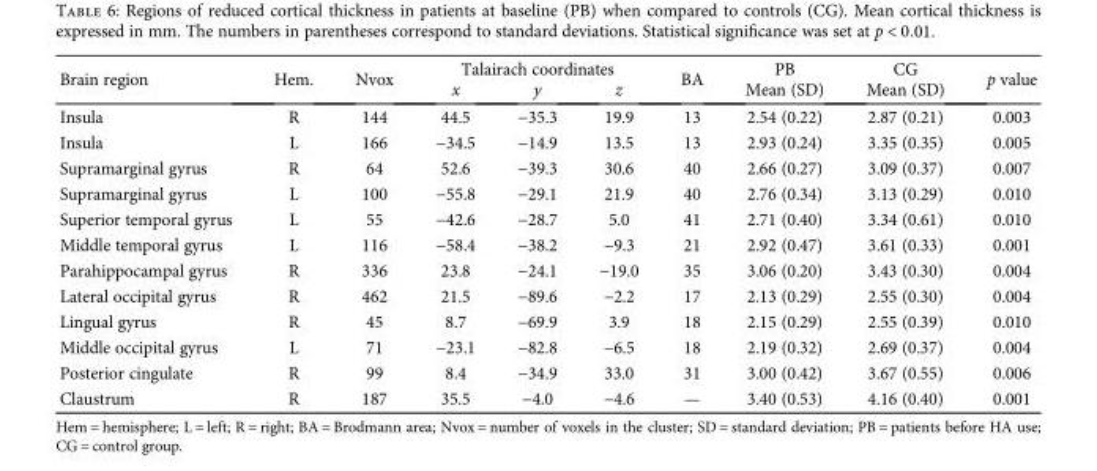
<table><thead><tr><td rowspan="2">Brain region</td><td rowspan="2">Hem.</td><td rowspan="2">Nvox</td><td colspan="3">Talairach coordinates</td><td rowspan="2">BA</td><td rowspan="2">PB Mean (SD)</td><td rowspan="2">CG Mean (SD)</td><td rowspan="2">p value</td></tr><tr><td>x</td><td>y</td><td>z</td></tr></thead><tbody><tr><td>Insula</td><td>R</td><td>144</td><td>44.5</td><td>−35.3</td><td>19.9</td><td>13</td><td>2.54 (0.22)</td><td>2.87 (0.21)</td><td>0.003</td></tr><tr><td>Insula</td><td>L</td><td>166</td><td>−34.5</td><td>−14.9</td><td>13.5</td><td>13</td><td>2.93 (0.24)</td><td>3.35 (0.35)</td><td>0.005</td></tr><tr><td>Supramarginal gyrus</td><td>R</td><td>64</td><td>52.6</td><td>−39.3</td><td>30.6</td><td>40</td><td>2.66 (0.27)</td><td>3.09 (0.37)</td><td>0.007</td></tr><tr><td>Supramarginal gyrus</td><td>L</td><td>100</td><td>−55.8</td><td>−29.1</td><td>21.9</td><td>40</td><td>2.76 (0.34)</td><td>3.13 (0.29)</td><td>0.010</td></tr><tr><td>Superior temporal gyrus</td><td>L</td><td>55</td><td>−42.6</td><td>−28.7</td><td>5.0</td><td>41</td><td>2.71 (0.40)</td><td>3.34 (0.61)</td><td>0.010</td></tr><tr><td>Middle temporal gyrus</td><td>L</td><td>116</td><td>−58.4</td><td>−38.2</td><td>−9.3</td><td>21</td><td>2.92 (0.47)</td><td>3.61 (0.33)</td><td>0.001</td></tr><tr><td>Parahippocampal gyrus</td><td>R</td><td>336</td><td>23.8</td><td>−24.1</td><td>−19.0</td><td>35</td><td>3.06 (0.20)</td><td>3.43 (0.30)</td><td>0.004</td></tr><tr><td>Lateral occipital gyrus</td><td>R</td><td>462</td><td>21.5</td><td>−89.6</td><td>−2.2</td><td>17</td><td>2.13 (0.29)</td><td>2.55 (0.30)</td><td>0.004</td></tr><tr><td>Lingual gyrus</td><td>R</td><td>45</td><td>8.7</td><td>−69.9</td><td>3.9</td><td>18</td><td>2.15 (0.29)</td><td>2.55 (0.39)</td><td>0.010</td></tr><tr><td>Middle occipital gyrus</td><td>L</td><td>71</td><td>−23.1</td><td>−82.8</td><td>−6.5</td><td>18</td><td>2.19 (0.32)</td><td>2.69 (0.37)</td><td>0.004</td></tr><tr><td>Posterior cingulate</td><td>R</td><td>99</td><td>8.4</td><td>−34.9</td><td>33.0</td><td>31</td><td>3.00 (0.42)</td><td>3.67 (0.55)</td><td>0.006</td></tr><tr><td>Claustrum</td><td>R</td><td>187</td><td>35.5</td><td>−4.0</td><td>−4.6</td><td>—</td><td>3.40 (0.53)</td><td>4.16 (0.40)</td><td>0.001</td></tr></tbody></table>